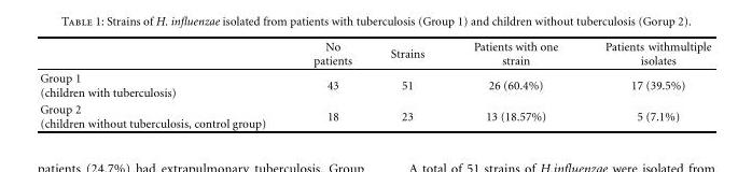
<table><thead><tr><td></td><td>No patients</td><td>Strains</td><td>Patients with one strain</td><td>Patients withmultiple isolates</td></tr></thead><tbody><tr><td>Group 1 (children with tuberculosis)</td><td>43</td><td>51</td><td>26 (60.4%)</td><td>17 (39.5%)</td></tr><tr><td>Group 2 (children without tuberculosis, control group)</td><td>18</td><td>23</td><td>13 (18.57%)</td><td>5 (7.1%)</td></tr></tbody></table>